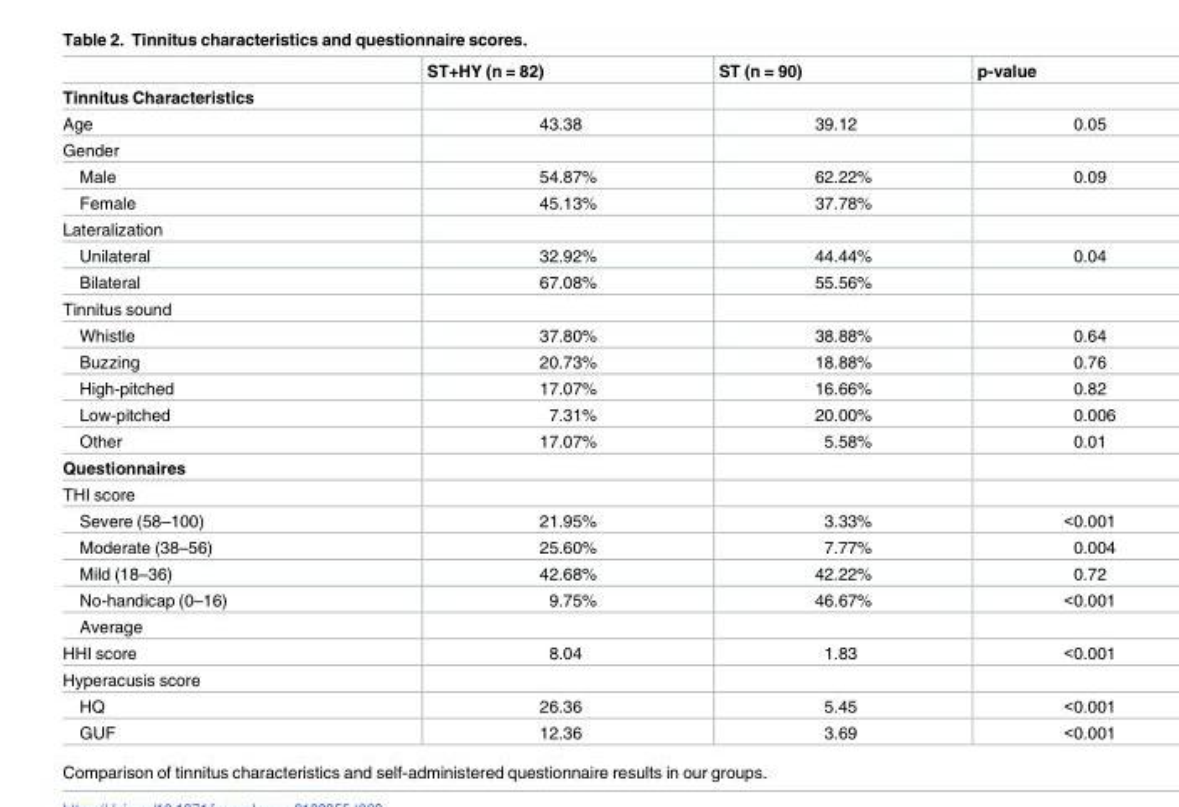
<table><thead><tr><td></td><td>ST+HY (n = 82)</td><td>ST (n = 90)</td><td>p-value</td></tr></thead><tbody><tr><td colspan="4">Tinnitus Characteristics</td></tr><tr><td>Age</td><td>43.38</td><td>39.12</td><td>0.05</td></tr><tr><td colspan="4">Gender</td></tr><tr><td>Male</td><td>54.87%</td><td>62.22%</td><td>0.09</td></tr><tr><td>Female</td><td>45.13%</td><td>37.78%</td><td></td></tr><tr><td colspan="4">Lateralization</td></tr><tr><td>Unilateral</td><td>32.92%</td><td>44.44%</td><td>0.04</td></tr><tr><td>Bilateral</td><td>67.08%</td><td>55.56%</td><td></td></tr><tr><td colspan="4">Tinnitus sound</td></tr><tr><td>Whistle</td><td>37.80%</td><td>38.88%</td><td>0.64</td></tr><tr><td>Buzzing</td><td>20.73%</td><td>18.88%</td><td>0.76</td></tr><tr><td>High-pitched</td><td>17.07%</td><td>16.66%</td><td>0.82</td></tr><tr><td>Low-pitched</td><td>7.31%</td><td>20.00%</td><td>0.006</td></tr><tr><td>Other</td><td>17.07%</td><td>5.58%</td><td>0.01</td></tr><tr><td colspan="4">Questionnaires</td></tr><tr><td colspan="4">THI score</td></tr><tr><td>Severe (58–100)</td><td>21.95%</td><td>3.33%</td><td>&lt;0.001</td></tr><tr><td>Moderate (38–56)</td><td>25.60%</td><td>7.77%</td><td>0.004</td></tr><tr><td>Mild (18–36)</td><td>42.68%</td><td>42.22%</td><td>0.72</td></tr><tr><td>No-handicap (0–16)</td><td>9.75%</td><td>46.67%</td><td>&lt;0.001</td></tr><tr><td colspan="4">Average</td></tr><tr><td>HHI score</td><td>8.04</td><td>1.83</td><td>&lt;0.001</td></tr><tr><td colspan="4">Hyperacusis score</td></tr><tr><td>HQ</td><td>26.36</td><td>5.45</td><td>&lt;0.001</td></tr><tr><td>GUF</td><td>12.36</td><td>3.69</td><td>&lt;0.001</td></tr></tbody></table>